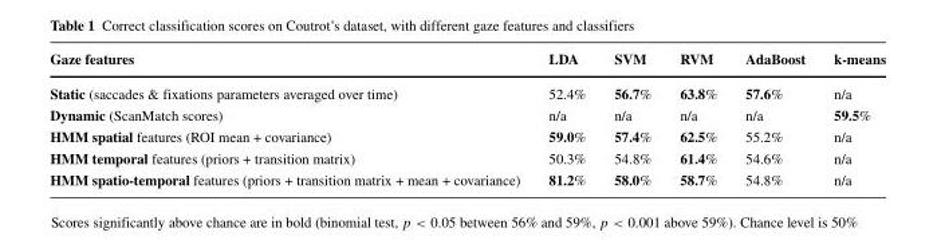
<table><thead><tr><td>Gaze features</td><td>LDA</td><td>SVM</td><td>RVM</td><td>AdaBoost</td><td>k-means</td></tr></thead><tbody><tr><td>Static (saccades &amp; fixations parameters averaged over time)</td><td>52.4%</td><td>56.7%</td><td>63.8%</td><td>57.6%</td><td>n/a</td></tr><tr><td>Dynamic (ScanMatch scores)</td><td>n/a</td><td>n/a</td><td>n/a</td><td>n/a</td><td>59.5%</td></tr><tr><td>HMM spatial features (ROI mean + covariance)</td><td>59.0%</td><td>57.4%</td><td>62.5%</td><td>55.2%</td><td>n/a</td></tr><tr><td>HMM temporal features (priors + transition matrix)</td><td>50.3%</td><td>54.8%</td><td>61.4%</td><td>54.6%</td><td>n/a</td></tr><tr><td>HMM spatio-temporal features (priors + transition matrix + mean + covariance)</td><td>81.2%</td><td>58.0%</td><td>58.7%</td><td>54.8%</td><td>n/a</td></tr></tbody></table>